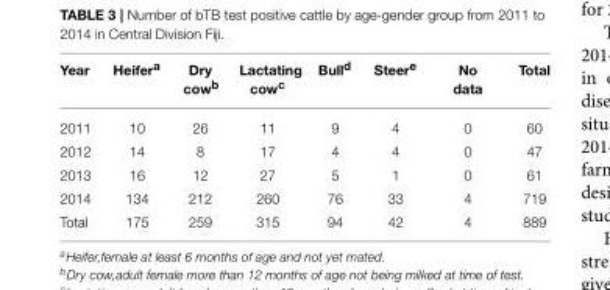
<table><thead><tr><td>Year</td><td>Heifer<sup>a</sup></td><td>Dry cow<sup>b</sup></td><td>Lactating cow<sup>c</sup></td><td>Bull<sup>d</sup></td><td>Steer<sup>e</sup></td><td>No data</td><td>Total</td></tr></thead><tbody><tr><td>2011</td><td>10</td><td>26</td><td>11</td><td>9</td><td>4</td><td>0</td><td>60</td></tr><tr><td>2012</td><td>14</td><td>8</td><td>17</td><td>4</td><td>4</td><td>0</td><td>47</td></tr><tr><td>2013</td><td>16</td><td>12</td><td>27</td><td>5</td><td>1</td><td>0</td><td>61</td></tr><tr><td>2014</td><td>134</td><td>212</td><td>260</td><td>76</td><td>33</td><td>4</td><td>719</td></tr><tr><td>Total</td><td>175</td><td>259</td><td>315</td><td>94</td><td>42</td><td>4</td><td>889</td></tr></tbody></table>